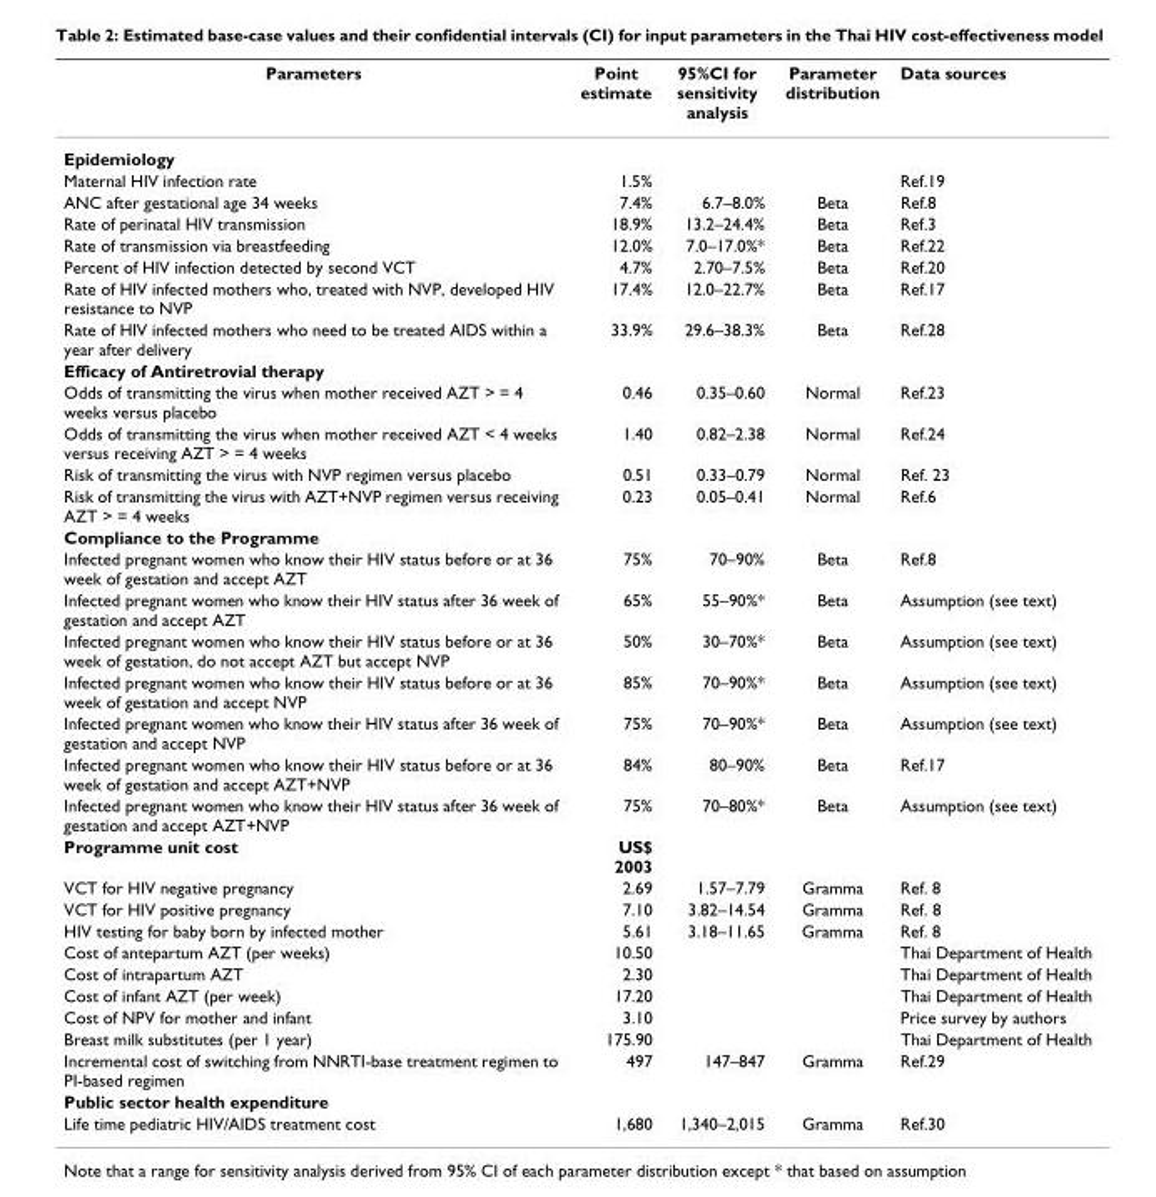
<table><thead><tr><td>Parameters</td><td>Point estimate</td><td>95%CI for sensitivity analysis</td><td>Parameter distribution</td><td>Data sources</td></tr></thead><tbody><tr><td colspan="5">Epidemiology</td></tr><tr><td>Maternal HIV infection rate</td><td>1.5%</td><td></td><td></td><td>Ref.19</td></tr><tr><td>ANC after gestational age 34 weeks</td><td>7.4%</td><td>6.7–8.0%</td><td>Beta</td><td>Ref.8</td></tr><tr><td>Rate of perinatal HIV transmission</td><td>18.9%</td><td>13.2–24.4%</td><td>Beta</td><td>Ref.3</td></tr><tr><td>Rate of transmission via breastfeeding</td><td>12.0%</td><td>7.0–17.0%*</td><td>Beta</td><td>Ref.22</td></tr><tr><td>Percent of HIV infection detected by second VCT</td><td>4.7%</td><td>2.70–7.5%</td><td>Beta</td><td>Ref.20</td></tr><tr><td>Rate of HIV infected mothers who, treated with NVP, developed HIV resistance to NVP</td><td>17.4%</td><td>12.0–22.7%</td><td>Beta</td><td>Ref.17</td></tr><tr><td>Rate of HIV infected mothers who need to be treated AIDS within a year after delivery</td><td>33.9%</td><td>29.6–38.3%</td><td>Beta</td><td>Ref.28</td></tr><tr><td colspan="5">Efficacy of Antiretrovial therapy</td></tr><tr><td>Odds of transmitting the virus when mother received AZT &gt; = 4 weeks versus placebo</td><td>0.46</td><td>0.35–0.60</td><td>Normal</td><td>Ref.23</td></tr><tr><td>Odds of transmitting the virus when mother received AZT &lt; 4 weeks versus receiving AZT &gt; = 4 weeks</td><td>1.40</td><td>0.82–2.38</td><td>Normal</td><td>Ref.24</td></tr><tr><td>Risk of transmitting the virus with NVP regimen versus placebo</td><td>0.51</td><td>0.33–0.79</td><td>Normal</td><td>Ref. 23</td></tr><tr><td>Risk of transmitting the virus with AZT+NVP regimen versus receiving AZT &gt; = 4 weeks</td><td>0.23</td><td>0.05–0.41</td><td>Normal</td><td>Ref.6</td></tr><tr><td colspan="5">Compliance to the Programme</td></tr><tr><td>Infected pregnant women who know their HIV status before or at 36 week of gestation and accept AZT</td><td>75%</td><td>70–90%</td><td>Beta</td><td>Ref.8</td></tr><tr><td>Infected pregnant women who know their HIV status after 36 week of gestation and accept AZT</td><td>65%</td><td>55–90%*</td><td>Beta</td><td>Assumption (see text)</td></tr><tr><td>Infected pregnant women who know their HIV status before or at 36 week of gestation, do not accept AZT but accept NVP</td><td>50%</td><td>30–70%*</td><td>Beta</td><td>Assumption (see text)</td></tr><tr><td>Infected pregnant women who know their HIV status before or at 36 week of gestation and accept NVP</td><td>85%</td><td>70–90%*</td><td>Beta</td><td>Assumption (see text)</td></tr><tr><td>Infected pregnant women who know their HIV status after 36 week of gestation and accept NVP</td><td>75%</td><td>70–90%*</td><td>Beta</td><td>Assumption (see text)</td></tr><tr><td>Infected pregnant women who know their HIV status before or at 36 week of gestation and accept AZT+NVP</td><td>84%</td><td>80–90%</td><td>Beta</td><td>Ref.17</td></tr><tr><td>Infected pregnant women who know their HIV status after 36 week of gestation and accept AZT+NVP</td><td>75%</td><td>70–80%*</td><td>Beta</td><td>Assumption (see text)</td></tr><tr><td>Programme unit cost</td><td>US$ 2003</td><td></td><td></td><td></td></tr><tr><td>VCT for HIV negative pregnancy</td><td>2.69</td><td>1.57–7.79</td><td>Gramma</td><td>Ref. 8</td></tr><tr><td>VCT for HIV positive pregnancy</td><td>7.10</td><td>3.82–14.54</td><td>Gramma</td><td>Ref. 8</td></tr><tr><td>HIV testing for baby born by infected mother</td><td>5.61</td><td>3.18–11.65</td><td>Gramma</td><td>Ref. 8</td></tr><tr><td>Cost of antepartum AZT (per weeks)</td><td>10.50</td><td></td><td></td><td>Thai Department of Health</td></tr><tr><td>Cost of intrapartum AZT</td><td>2.30</td><td></td><td></td><td>Thai Department of Health</td></tr><tr><td>Cost of infant AZT (per week)</td><td>17.20</td><td></td><td></td><td>Thai Department of Health</td></tr><tr><td>Cost of NPV for mother and infant</td><td>3.10</td><td></td><td></td><td>Price survey by authors</td></tr><tr><td>Breast milk substitutes (per 1 year)</td><td>175.90</td><td></td><td></td><td>Thai Department of Health</td></tr><tr><td>Incremental cost of switching from NNRTI-base treatment regimen to PI-based regimen</td><td>497</td><td>147–847</td><td>Gramma</td><td>Ref.29</td></tr><tr><td colspan="5">Public sector health expenditure</td></tr><tr><td>Life time pediatric HIV/AIDS treatment cost</td><td>1,680</td><td>1,340–2,015</td><td>Gramma</td><td>Ref.30</td></tr></tbody></table>